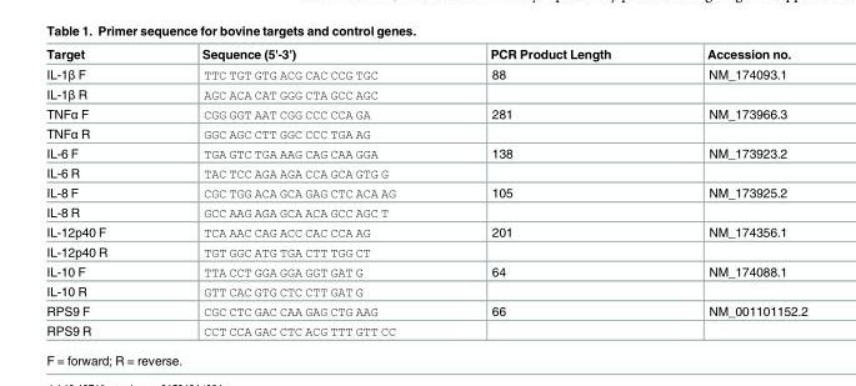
<table><thead><tr><td>Target</td><td>Sequence (5&#x27;-3&#x27;)</td><td>PCR Product Length</td><td>Accession no.</td></tr></thead><tbody><tr><td>IL-1β F</td><td>TTC TGT GTG ACG CAC CCG TGC</td><td>88</td><td>NM_174093.1</td></tr><tr><td>IL-1β R</td><td>AGC ACA CAT GGG CTA GCC AGC</td><td></td><td></td></tr><tr><td>TNFα F</td><td>CGG GGT AAT CGG CCC CCA GA</td><td>281</td><td>NM_173966.3</td></tr><tr><td>TNFα R</td><td>GGC AGC CTT GGC CCC TGA AG</td><td></td><td></td></tr><tr><td>IL-6 F</td><td>TGA GTC TGA AAG CAG CAA GGA</td><td>138</td><td>NM_173923.2</td></tr><tr><td>IL-6 R</td><td>TAC TCC AGA AGA CCA GCA GTG G</td><td></td><td></td></tr><tr><td>IL-8 F</td><td>CGC TGG ACA GCA GAG CTC ACA AG</td><td>105</td><td>NM_173925.2</td></tr><tr><td>IL-8 R</td><td>GCC AAG AGA GCA ACA GCC AGC T</td><td></td><td></td></tr><tr><td>IL-12p40 F</td><td>TCA AAC CAG ACC CAC CCA AG</td><td>201</td><td>NM_174356.1</td></tr><tr><td>IL-12p40 R</td><td>TGT GGC ATG TGA CTT TGG CT</td><td></td><td></td></tr><tr><td>IL-10 F</td><td>TTA CCT GGA GGA GGT GAT G</td><td>64</td><td>NM_174088.1</td></tr><tr><td>IL-10 R</td><td>GTT CAC GTG CTC CTT GAT G</td><td></td><td></td></tr><tr><td>RPS9 F</td><td>CGC CTC GAC CAA GAG CTG AAG</td><td>66</td><td>NM_001101152.2</td></tr><tr><td>RPS9 R</td><td>CCT CCA GAC CTC ACG TTT GTT CC</td><td></td><td></td></tr></tbody></table>